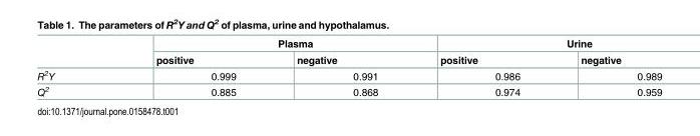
<table><thead><tr><td rowspan="2"></td><td colspan="2">Plasma</td><td colspan="2">Urine</td></tr><tr><td>positive</td><td>negative</td><td>positive</td><td>negative</td></tr></thead><tbody><tr><td>R<sup>2</sup>Y</td><td>0.999</td><td>0.991</td><td>0.986</td><td>0.989</td></tr><tr><td>Q<sup>2</sup></td><td>0.885</td><td>0.868</td><td>0.974</td><td>0.959</td></tr></tbody></table>